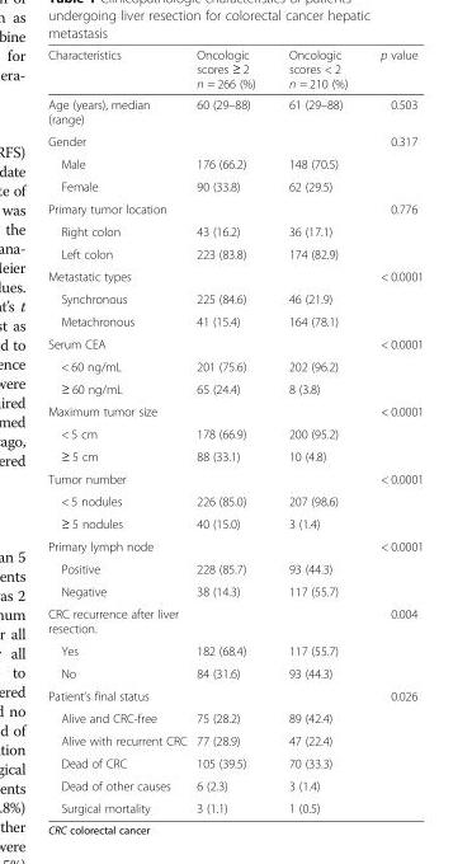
<table><thead><tr><td>Characteristics</td><td>Oncologic scores ≥ 2 n = 266 (%)</td><td>Oncologic scores &lt; 2 n = 210 (%)</td><td>p value</td></tr></thead><tbody><tr><td>Age (years), median (range)</td><td>60 (29–88)</td><td>61 (29–88)</td><td>0.503</td></tr><tr><td>Gender</td><td></td><td></td><td>0.317</td></tr><tr><td>Male</td><td>176 (66.2)</td><td>148 (70.5)</td><td></td></tr><tr><td>Female</td><td>90 (33.8)</td><td>62 (29.5)</td><td></td></tr><tr><td>Primary tumor location</td><td></td><td></td><td>0.776</td></tr><tr><td>Right colon</td><td>43 (16.2)</td><td>36 (17.1)</td><td></td></tr><tr><td>Left colon</td><td>223 (83.8)</td><td>174 (82.9)</td><td></td></tr><tr><td>Metastatic types</td><td></td><td></td><td>&lt; 0.0001</td></tr><tr><td>Synchronous</td><td>225 (84.6)</td><td>46 (21.9)</td><td></td></tr><tr><td>Metachronous</td><td>41 (15.4)</td><td>164 (78.1)</td><td></td></tr><tr><td>Serum CEA</td><td></td><td></td><td>&lt; 0.0001</td></tr><tr><td>&lt; 60 ng/mL</td><td>201 (75.6)</td><td>202 (96.2)</td><td></td></tr><tr><td>≥ 60 ng/mL</td><td>65 (24.4)</td><td>8 (3.8)</td><td></td></tr><tr><td>Maximum tumor size</td><td></td><td></td><td>&lt; 0.0001</td></tr><tr><td>&lt; 5 cm</td><td>178 (66.9)</td><td>200 (95.2)</td><td></td></tr><tr><td>≥ 5 cm</td><td>88 (33.1)</td><td>10 (4.8)</td><td></td></tr><tr><td>Tumor number</td><td></td><td></td><td>&lt; 0.0001</td></tr><tr><td>&lt; 5 nodules</td><td>226 (85.0)</td><td>207 (98.6)</td><td></td></tr><tr><td>≥ 5 nodules</td><td>40 (15.0)</td><td>3 (1.4)</td><td></td></tr><tr><td>Primary lymph node</td><td></td><td></td><td>&lt; 0.0001</td></tr><tr><td>Positive</td><td>228 (85.7)</td><td>93 (44.3)</td><td></td></tr><tr><td>Negative</td><td>38 (14.3)</td><td>117 (55.7)</td><td></td></tr><tr><td>CRC recurrence after liver resection.</td><td></td><td></td><td>0.004</td></tr><tr><td>Yes</td><td>182 (68.4)</td><td>117 (55.7)</td><td></td></tr><tr><td>No</td><td>84 (31.6)</td><td>93 (44.3)</td><td></td></tr><tr><td>Patient’s final status</td><td></td><td></td><td>0.026</td></tr><tr><td>Alive and CRC-free</td><td>75 (28.2)</td><td>89 (42.4)</td><td></td></tr><tr><td>Alive with recurrent CRC</td><td>77 (28.9)</td><td>47 (22.4)</td><td></td></tr><tr><td>Dead of CRC</td><td>105 (39.5)</td><td>70 (33.3)</td><td></td></tr><tr><td>Dead of other causes</td><td>6 (2.3)</td><td>3 (1.4)</td><td></td></tr><tr><td>Surgical mortality</td><td>3 (1.1)</td><td>1 (0.5)</td><td></td></tr></tbody></table>